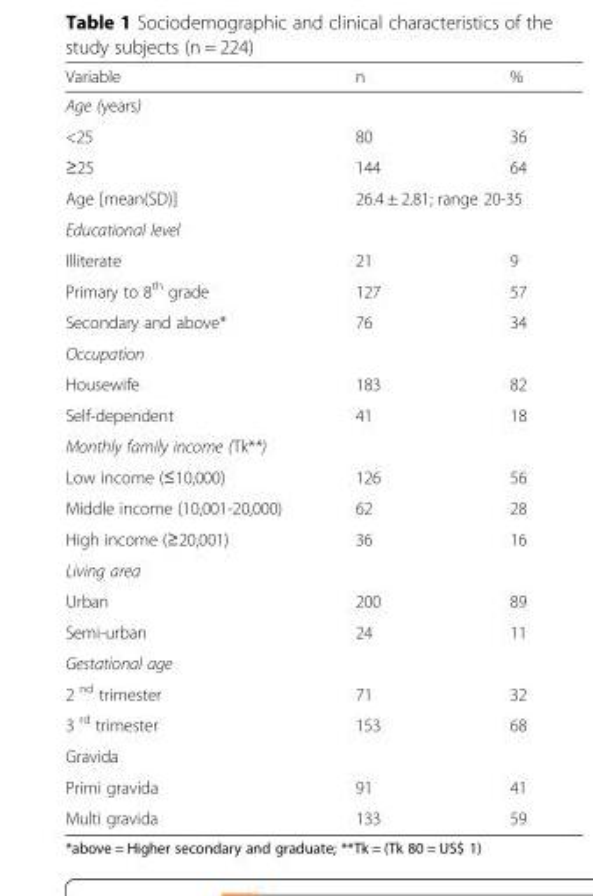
<table><thead><tr><td>Variable</td><td>n</td><td>%</td></tr></thead><tbody><tr><td colspan="3">Age (years)</td></tr><tr><td>&lt;25</td><td>80</td><td>36</td></tr><tr><td>≥25</td><td>144</td><td>64</td></tr><tr><td>Age [mean(SD)]</td><td colspan="2">26.4 ± 2.81; range 20-35</td></tr><tr><td colspan="3">Educational level</td></tr><tr><td>Illiterate</td><td>21</td><td>9</td></tr><tr><td>Primary to 8<sup>th</sup> grade</td><td>127</td><td>57</td></tr><tr><td>Secondary and above*</td><td>76</td><td>34</td></tr><tr><td colspan="3">Occupation</td></tr><tr><td>Housewife</td><td>183</td><td>82</td></tr><tr><td>Self-dependent</td><td>41</td><td>18</td></tr><tr><td colspan="3">Monthly family income (Tk**)</td></tr><tr><td>Low income (≤10,000)</td><td>126</td><td>56</td></tr><tr><td>Middle income (10,001-20,000)</td><td>62</td><td>28</td></tr><tr><td>High income (≥20,001)</td><td>36</td><td>16</td></tr><tr><td colspan="3">Living area</td></tr><tr><td>Urban</td><td>200</td><td>89</td></tr><tr><td>Semi-urban</td><td>24</td><td>11</td></tr><tr><td colspan="3">Gestational age</td></tr><tr><td>2 <sup>nd</sup> trimester</td><td>71</td><td>32</td></tr><tr><td>3 <sup>rd</sup> trimester</td><td>153</td><td>68</td></tr><tr><td colspan="3">Gravida</td></tr><tr><td>Primi gravida</td><td>91</td><td>41</td></tr><tr><td>Multi gravida</td><td>133</td><td>59</td></tr></tbody></table>